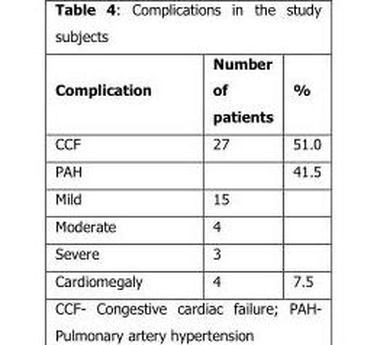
<table><thead><tr><td>Complication</td><td>Number of patients</td><td>%</td></tr></thead><tbody><tr><td>CCF</td><td>27</td><td>51.0</td></tr><tr><td>PAH</td><td></td><td>41.5</td></tr><tr><td>Mild</td><td>15</td><td></td></tr><tr><td>Moderate</td><td>4</td><td></td></tr><tr><td>Severe</td><td>3</td><td></td></tr><tr><td>Cardiomegaly</td><td>4</td><td>7.5</td></tr></tbody></table>